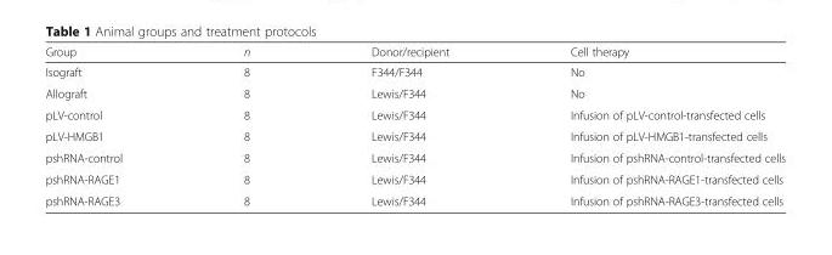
<table><thead><tr><td>Group</td><td>n</td><td>Donor/recipient</td><td>Cell therapy</td></tr></thead><tbody><tr><td>Isograft</td><td>8</td><td>F344/F344</td><td>No</td></tr><tr><td>Allograft</td><td>8</td><td>Lewis/F344</td><td>No</td></tr><tr><td>pLV-control</td><td>8</td><td>Lewis/F344</td><td>Infusion of pLV-control-transfected cells</td></tr><tr><td>pLV-HMGB1</td><td>8</td><td>Lewis/F344</td><td>Infusion of pLV-HMGB1-transfected cells</td></tr><tr><td>pshRNA-control</td><td>8</td><td>Lewis/F344</td><td>Infusion of pshRNA-control-transfected cells</td></tr><tr><td>pshRNA-RAGE1</td><td>8</td><td>Lewis/F344</td><td>Infusion of pshRNA-RAGE1-transfected cells</td></tr><tr><td>pshRNA-RAGE3</td><td>8</td><td>Lewis/F344</td><td>Infusion of pshRNA-RAGE3-transfected cells</td></tr></tbody></table>